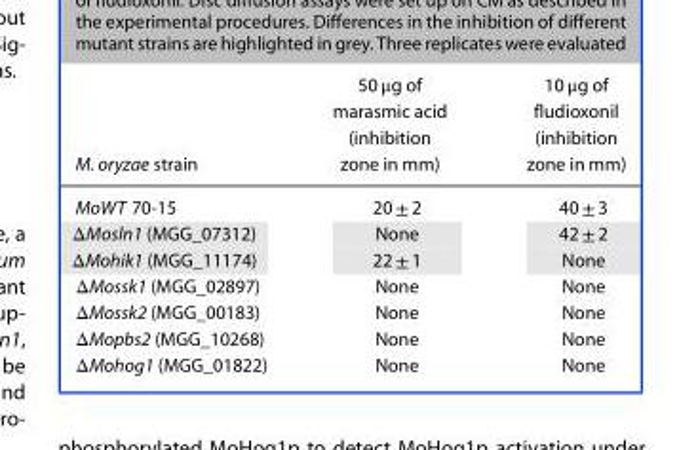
<table><thead><tr><td>M. oryzae strain</td><td>50 μg of marasmic acid (inhibition zone in mm)</td><td>10 μg of fludioxonil (inhibition zone in mm)</td></tr></thead><tbody><tr><td>MoWT 70-15</td><td>20 ± 2</td><td>40 ± 3</td></tr><tr><td>ΔMosln1 (MGG_07312)</td><td>None</td><td>42 ± 2</td></tr><tr><td>ΔMohik1 (MGG_11174)</td><td>22 ± 1</td><td>None</td></tr><tr><td>ΔMossk1 (MGG_02897)</td><td>None</td><td>None</td></tr><tr><td>ΔMossk2 (MGG_00183)</td><td>None</td><td>None</td></tr><tr><td>ΔMopbs2 (MGG_10268)</td><td>None</td><td>None</td></tr><tr><td>ΔMohog1 (MGG_01822)</td><td>None</td><td>None</td></tr></tbody></table>